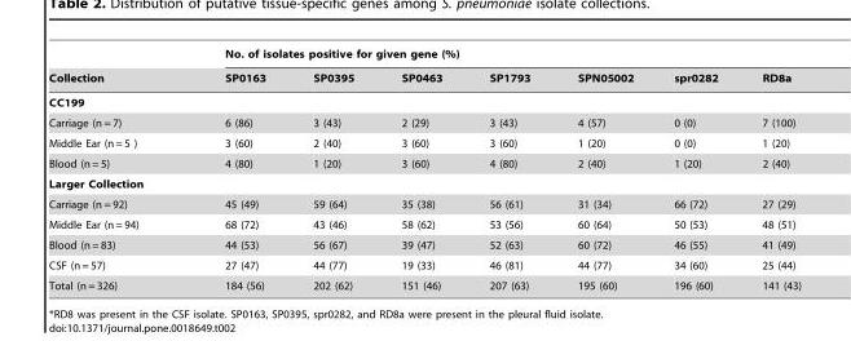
<table><thead><tr><td rowspan="2">Collection</td><td colspan="7">No. of isolates positive for given gene (%)</td></tr><tr><td>SP0163</td><td>SP0395</td><td>SP0463</td><td>SP1793</td><td>SPN05002</td><td>spr0282</td><td>RD8a</td></tr></thead><tbody><tr><td colspan="8">CC199</td></tr><tr><td>Carriage (n = 7)</td><td>6 (86)</td><td>3 (43)</td><td>2 (29)</td><td>3 (43)</td><td>4 (57)</td><td>0 (0)</td><td>7 (100)</td></tr><tr><td>Middle Ear (n = 5 )</td><td>3 (60)</td><td>2 (40)</td><td>3 (60)</td><td>3 (60)</td><td>1 (20)</td><td>0 (0)</td><td>1 (20)</td></tr><tr><td>Blood (n = 5)</td><td>4 (80)</td><td>1 (20)</td><td>3 (60)</td><td>4 (80)</td><td>2 (40)</td><td>1 (20)</td><td>2 (40)</td></tr><tr><td colspan="8">Larger Collection</td></tr><tr><td>Carriage (n = 92)</td><td>45 (49)</td><td>59 (64)</td><td>35 (38)</td><td>56 (61)</td><td>31 (34)</td><td>66 (72)</td><td>27 (29)</td></tr><tr><td>Middle Ear (n = 94)</td><td>68 (72)</td><td>43 (46)</td><td>58 (62)</td><td>53 (56)</td><td>60 (64)</td><td>50 (53)</td><td>48 (51)</td></tr><tr><td>Blood (n = 83)</td><td>44 (53)</td><td>56 (67)</td><td>39 (47)</td><td>52 (63)</td><td>60 (72)</td><td>46 (55)</td><td>41 (49)</td></tr><tr><td>CSF (n = 57)</td><td>27 (47)</td><td>44 (77)</td><td>19 (33)</td><td>46 (81)</td><td>44 (77)</td><td>34 (60)</td><td>25 (44)</td></tr><tr><td>Total (n = 326)</td><td>184 (56)</td><td>202 (62)</td><td>151 (46)</td><td>207 (63)</td><td>195 (60)</td><td>196 (60)</td><td>141 (43)</td></tr></tbody></table>